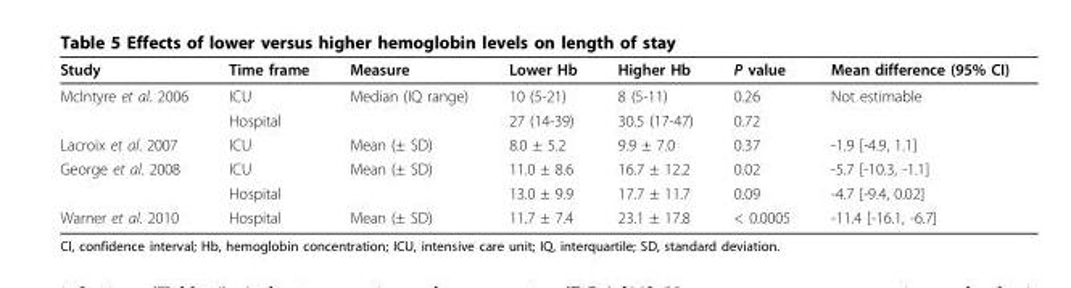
<table><thead><tr><td>Study</td><td>Time frame</td><td>Measure</td><td>Lower Hb</td><td>Higher Hb</td><td>P value</td><td>Mean difference (95% CI)</td></tr></thead><tbody><tr><td rowspan="2">McIntyre et al. 2006</td><td>ICU</td><td>Median (IQ range)</td><td>10 (5-21)</td><td>8 (5-11)</td><td>0.26</td><td>Not estimable</td></tr><tr><td>Hospital</td><td></td><td>27 (14-39)</td><td>30.5 (17-47)</td><td>0.72</td><td></td></tr><tr><td>Lacroix et al. 2007</td><td>ICU</td><td>Mean (± SD)</td><td>8.0 ± 5.2</td><td>9.9 ± 7.0</td><td>0.37</td><td>-1.9 [-4.9, 1.1]</td></tr><tr><td rowspan="2">George et al. 2008</td><td>ICU</td><td>Mean (± SD)</td><td>11.0 ± 8.6</td><td>16.7 ± 12.2</td><td>0.02</td><td>-5.7 [-10.3, -1.1]</td></tr><tr><td>Hospital</td><td></td><td>13.0 ± 9.9</td><td>17.7 ± 11.7</td><td>0.09</td><td>-4.7 [-9.4, 0.02]</td></tr><tr><td>Warner et al. 2010</td><td>Hospital</td><td>Mean (± SD)</td><td>11.7 ± 7.4</td><td>23.1 ± 17.8</td><td>&lt; 0.0005</td><td>-11.4 [-16.1, -6.7]</td></tr></tbody></table>